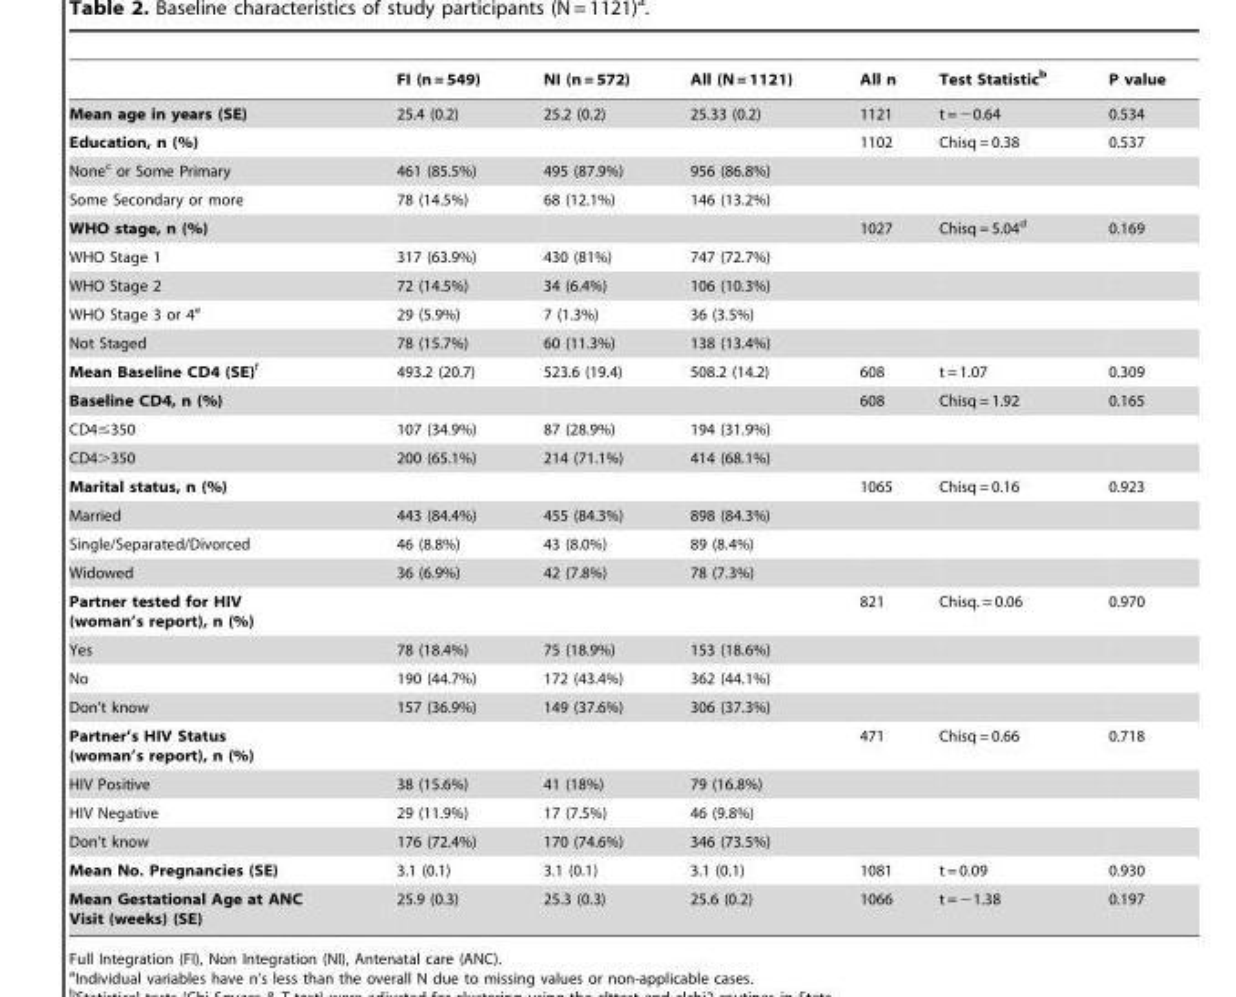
<table><thead><tr><td></td><td>FI (n = 549)</td><td>NI (n = 572)</td><td>All (N = 1121)</td><td>All n</td><td>Test Statistic<sup>b</sup></td><td>P value</td></tr></thead><tbody><tr><td>Mean age in years (SE)</td><td>25.4 (0.2)</td><td>25.2 (0.2)</td><td>25.33 (0.2)</td><td>1121</td><td>t = −0.64</td><td>0.534</td></tr><tr><td>Education, n (%)</td><td></td><td></td><td></td><td>1102</td><td>Chisq = 0.38</td><td>0.537</td></tr><tr><td>None<sup>c</sup> or Some Primary</td><td>461 (85.5%)</td><td>495 (87.9%)</td><td>956 (86.8%)</td><td></td><td></td><td></td></tr><tr><td>Some Secondary or more</td><td>78 (14.5%)</td><td>68 (12.1%)</td><td>146 (13.2%)</td><td></td><td></td><td></td></tr><tr><td>WHO stage, n (%)</td><td></td><td></td><td></td><td>1027</td><td>Chisq = 5.04<sup>d</sup></td><td>0.169</td></tr><tr><td>WHO Stage 1</td><td>317 (63.9%)</td><td>430 (81%)</td><td>747 (72.7%)</td><td></td><td></td><td></td></tr><tr><td>WHO Stage 2</td><td>72 (14.5%)</td><td>34 (6.4%)</td><td>106 (10.3%)</td><td></td><td></td><td></td></tr><tr><td>WHO Stage 3 or 4<sup>e</sup></td><td>29 (5.9%)</td><td>7 (1.3%)</td><td>36 (3.5%)</td><td></td><td></td><td></td></tr><tr><td>Not Staged</td><td>78 (15.7%)</td><td>60 (11.3%)</td><td>138 (13.4%)</td><td></td><td></td><td></td></tr><tr><td>Mean Baseline CD4 (SE)f</td><td>493.2 (20.7)</td><td>523.6 (19.4)</td><td>508.2 (14.2)</td><td>608</td><td>t = 1.07</td><td>0.309</td></tr><tr><td>Baseline CD4, n (%)</td><td></td><td></td><td></td><td>608</td><td>Chisq = 1.92</td><td>0.165</td></tr><tr><td>CD4≤350</td><td>107 (34.9%)</td><td>87 (28.9%)</td><td>194 (31.9%)</td><td></td><td></td><td></td></tr><tr><td>CD4&gt;350</td><td>200 (65.1%)</td><td>214 (71.1%)</td><td>414 (68.1%)</td><td></td><td></td><td></td></tr><tr><td>Marital status, n (%)</td><td></td><td></td><td></td><td>1065</td><td>Chisq = 0.16</td><td>0.923</td></tr><tr><td>Married</td><td>443 (84.4%)</td><td>455 (84.3%)</td><td>898 (84.3%)</td><td></td><td></td><td></td></tr><tr><td>Single/Separated/Divorced</td><td>46 (8.8%)</td><td>43 (8.0%)</td><td>89 (8.4%)</td><td></td><td></td><td></td></tr><tr><td>Widowed</td><td>36 (6.9%)</td><td>42 (7.8%)</td><td>78 (7.3%)</td><td></td><td></td><td></td></tr><tr><td>Partner tested for HIV (woman’s report), n (%)</td><td></td><td></td><td></td><td>821</td><td>Chisq. = 0.06</td><td>0.970</td></tr><tr><td>Yes</td><td>78 (18.4%)</td><td>75 (18.9%)</td><td>153 (18.6%)</td><td></td><td></td><td></td></tr><tr><td>No</td><td>190 (44.7%)</td><td>172 (43.4%)</td><td>362 (44.1%)</td><td></td><td></td><td></td></tr><tr><td>Don’t know</td><td>157 (36.9%)</td><td>149 (37.6%)</td><td>306 (37.3%)</td><td></td><td></td><td></td></tr><tr><td>Partner’s HIV Status (woman’s report), n (%)</td><td></td><td></td><td></td><td>471</td><td>Chisq = 0.66</td><td>0.718</td></tr><tr><td>HIV Positive</td><td>38 (15.6%)</td><td>41 (18%)</td><td>79 (16.8%)</td><td></td><td></td><td></td></tr><tr><td>HIV Negative</td><td>29 (11.9%)</td><td>17 (7.5%)</td><td>46 (9.8%)</td><td></td><td></td><td></td></tr><tr><td>Don’t know</td><td>176 (72.4%)</td><td>170 (74.6%)</td><td>346 (73.5%)</td><td></td><td></td><td></td></tr><tr><td>Mean No. Pregnancies (SE)</td><td>3.1 (0.1)</td><td>3.1 (0.1)</td><td>3.1 (0.1)</td><td>1081</td><td>t = 0.09</td><td>0.930</td></tr><tr><td>Mean Gestational Age at ANC Visit (weeks) (SE)</td><td>25.9 (0.3)</td><td>25.3 (0.3)</td><td>25.6 (0.2)</td><td>1066</td><td>t = −1.38</td><td>0.197</td></tr></tbody></table>